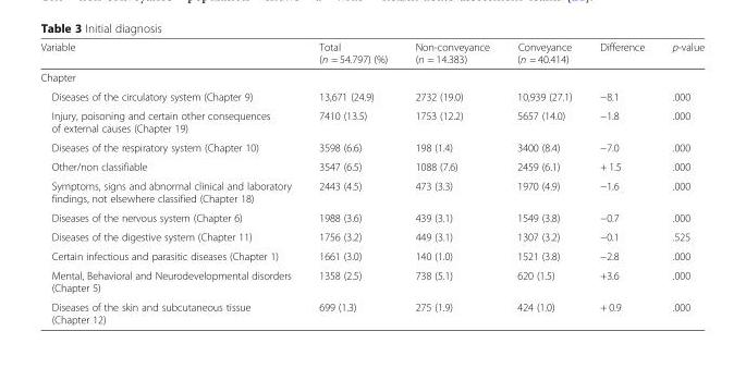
<table><thead><tr><td>Variable</td><td>Total (n = 54.797) (%)</td><td>Non-conveyance (n = 14.383)</td><td>Conveyance (n = 40.414)</td><td>Difference</td><td>p-value</td></tr></thead><tbody><tr><td colspan="6">Chapter</td></tr><tr><td>Diseases of the circulatory system (Chapter 9)</td><td>13,671 (24.9)</td><td>2732 (19.0)</td><td>10,939 (27.1)</td><td>−8.1</td><td>.000</td></tr><tr><td>Injury, poisoning and certain other consequences of external causes (Chapter 19)</td><td>7410 (13.5)</td><td>1753 (12.2)</td><td>5657 (14.0)</td><td>−1.8</td><td>.000</td></tr><tr><td>Diseases of the respiratory system (Chapter 10)</td><td>3598 (6.6)</td><td>198 (1.4)</td><td>3400 (8.4)</td><td>−7.0</td><td>.000</td></tr><tr><td>Other/non classifiable</td><td>3547 (6.5)</td><td>1088 (7.6)</td><td>2459 (6.1)</td><td>+ 1.5</td><td>.000</td></tr><tr><td>Symptoms, signs and abnormal clinical and laboratory findings, not elsewhere classified (Chapter 18)</td><td>2443 (4.5)</td><td>473 (3.3)</td><td>1970 (4.9)</td><td>−1.6</td><td>.000</td></tr><tr><td>Diseases of the nervous system (Chapter 6)</td><td>1988 (3.6)</td><td>439 (3.1)</td><td>1549 (3.8)</td><td>−0.7</td><td>.000</td></tr><tr><td>Diseases of the digestive system (Chapter 11)</td><td>1756 (3.2)</td><td>449 (3.1)</td><td>1307 (3.2)</td><td>−0.1</td><td>.525</td></tr><tr><td>Certain infectious and parasitic diseases (Chapter 1)</td><td>1661 (3.0)</td><td>140 (1.0)</td><td>1521 (3.8)</td><td>−2.8</td><td>.000</td></tr><tr><td>Mental, Behavioral and Neurodevelopmental disorders (Chapter 5)</td><td>1358 (2.5)</td><td>738 (5.1)</td><td>620 (1.5)</td><td>+3.6</td><td>.000</td></tr><tr><td>Diseases of the skin and subcutaneous tissue (Chapter 12)</td><td>699 (1.3)</td><td>275 (1.9)</td><td>424 (1.0)</td><td>+ 0.9</td><td>.000</td></tr></tbody></table>